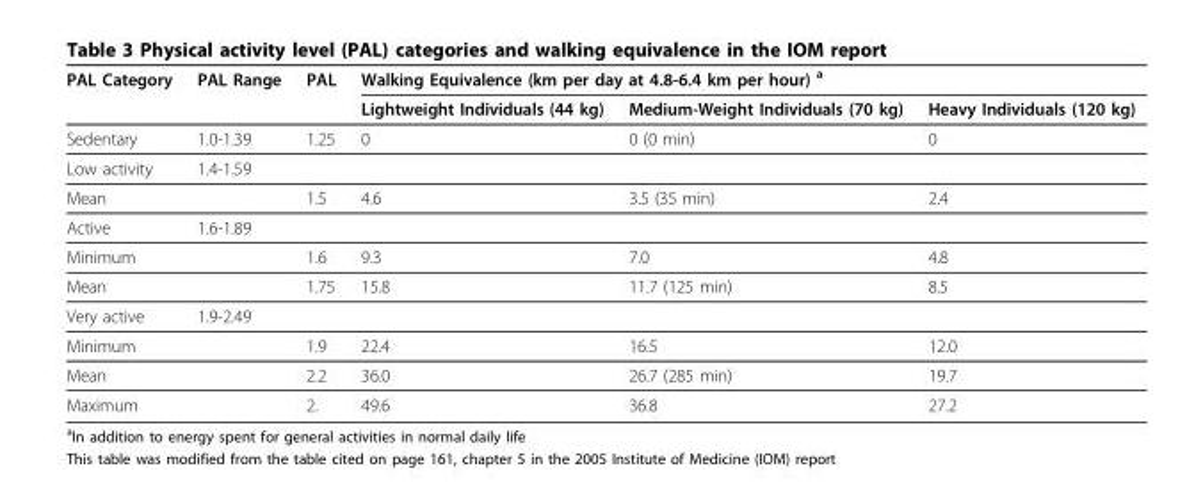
<table><thead><tr><td rowspan="2">PAL Category</td><td rowspan="2">PAL Range</td><td rowspan="2">PAL</td><td colspan="3">Walking Equivalence (km per day at 4.8-6.4 km per hour) <sup>a</sup></td></tr><tr><td>Lightweight Individuals (44 kg)</td><td>Medium-Weight Individuals (70 kg)</td><td>Heavy Individuals (120 kg)</td></tr></thead><tbody><tr><td>Sedentary</td><td>1.0-1.39</td><td>1.25</td><td>0</td><td>0 (0 min)</td><td>0</td></tr><tr><td>Low activity</td><td>1.4-1.59</td><td></td><td></td><td></td><td></td></tr><tr><td>Mean</td><td></td><td>1.5</td><td>4.6</td><td>3.5 (35 min)</td><td>2.4</td></tr><tr><td>Active</td><td>1.6-1.89</td><td></td><td></td><td></td><td></td></tr><tr><td>Minimum</td><td></td><td>1.6</td><td>9.3</td><td>7.0</td><td>4.8</td></tr><tr><td>Mean</td><td></td><td>1.75</td><td>15.8</td><td>11.7 (125 min)</td><td>8.5</td></tr><tr><td>Very active</td><td>1.9-2.49</td><td></td><td></td><td></td><td></td></tr><tr><td>Minimum</td><td></td><td>1.9</td><td>22.4</td><td>16.5</td><td>12.0</td></tr><tr><td>Mean</td><td></td><td>2.2</td><td>36.0</td><td>26.7 (285 min)</td><td>19.7</td></tr><tr><td>Maximum</td><td></td><td>2.</td><td>49.6</td><td>36.8</td><td>27.2</td></tr></tbody></table>